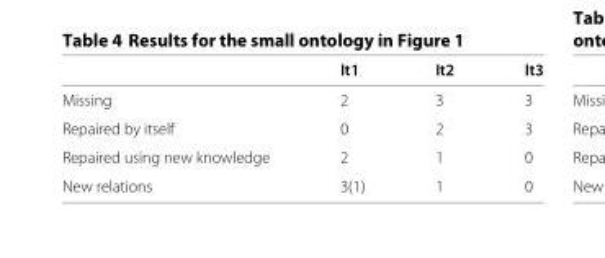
<table><thead><tr><td></td><td>It1</td><td>It2</td><td>It3</td></tr></thead><tbody><tr><td>Missing</td><td>2</td><td>3</td><td>3</td></tr><tr><td>Repaired by itself</td><td>0</td><td>2</td><td>3</td></tr><tr><td>Repaired using new knowledge</td><td>2</td><td>1</td><td>0</td></tr><tr><td>New relations</td><td>3(1)</td><td>1</td><td>0</td></tr></tbody></table>